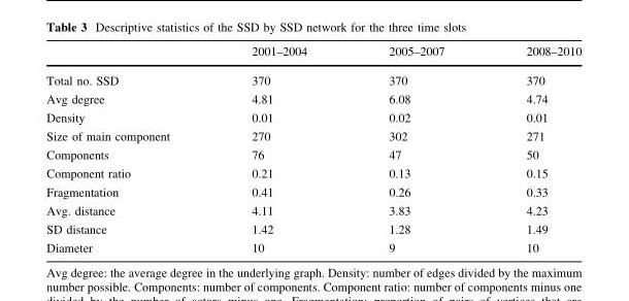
<table><thead><tr><td></td><td>2001–2004</td><td>2005–2007</td><td>2008–2010</td></tr></thead><tbody><tr><td>Total no. SSD</td><td>370</td><td>370</td><td>370</td></tr><tr><td>Avg degree</td><td>4.81</td><td>6.08</td><td>4.74</td></tr><tr><td>Density</td><td>0.01</td><td>0.02</td><td>0.01</td></tr><tr><td>Size of main component</td><td>270</td><td>302</td><td>271</td></tr><tr><td>Components</td><td>76</td><td>47</td><td>50</td></tr><tr><td>Component ratio</td><td>0.21</td><td>0.13</td><td>0.15</td></tr><tr><td>Fragmentation</td><td>0.41</td><td>0.26</td><td>0.33</td></tr><tr><td>Avg. distance</td><td>4.11</td><td>3.83</td><td>4.23</td></tr><tr><td>SD distance</td><td>1.42</td><td>1.28</td><td>1.49</td></tr><tr><td>Diameter</td><td>10</td><td>9</td><td>10</td></tr></tbody></table>